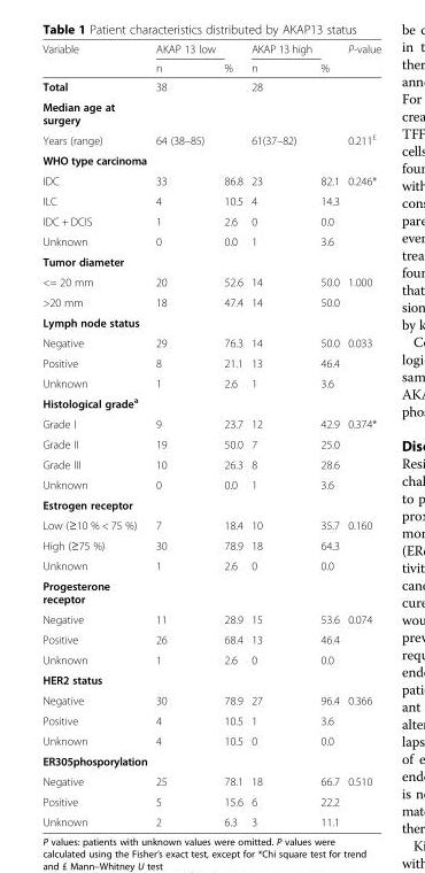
<table><thead><tr><td rowspan="2">Variable</td><td rowspan="2">AKAP 13 low n</td><td rowspan="2">%</td><td rowspan="2">AKAP 13 high n</td><td rowspan="2">%</td><td rowspan="2">P-value</td></tr><tr></tr></thead><tbody><tr><td>Total</td><td>38</td><td></td><td>28</td><td></td><td></td></tr><tr><td colspan="6">Median age at surgery</td></tr><tr><td>Years (range)</td><td>64 (38–85)</td><td></td><td>61(37–82)</td><td></td><td>0.211<sup>£</sup></td></tr><tr><td colspan="6">WHO type carcinoma</td></tr><tr><td>IDC</td><td>33</td><td>86.8</td><td>23</td><td>82.1</td><td>0.246*</td></tr><tr><td>ILC</td><td>4</td><td>10.5</td><td>4</td><td>14.3</td><td></td></tr><tr><td>IDC + DCIS</td><td>1</td><td>2.6</td><td>0</td><td>0.0</td><td></td></tr><tr><td>Unknown</td><td>0</td><td>0.0</td><td>1</td><td>3.6</td><td></td></tr><tr><td colspan="6">Tumor diameter</td></tr><tr><td>&lt;= 20 mm</td><td>20</td><td>52.6</td><td>14</td><td>50.0</td><td>1.000</td></tr><tr><td>&gt;20 mm</td><td>18</td><td>47.4</td><td>14</td><td>50.0</td><td></td></tr><tr><td colspan="6">Lymph node status</td></tr><tr><td>Negative</td><td>29</td><td>76.3</td><td>14</td><td>50.0</td><td>0.033</td></tr><tr><td>Positive</td><td>8</td><td>21.1</td><td>13</td><td>46.4</td><td></td></tr><tr><td>Unknown</td><td>1</td><td>2.6</td><td>1</td><td>3.6</td><td></td></tr><tr><td colspan="6">Histological grade<sup>a</sup></td></tr><tr><td>Grade I</td><td>9</td><td>23.7</td><td>12</td><td>42.9</td><td>0.374*</td></tr><tr><td>Grade II</td><td>19</td><td>50.0</td><td>7</td><td>25.0</td><td></td></tr><tr><td>Grade III</td><td>10</td><td>26.3</td><td>8</td><td>28.6</td><td></td></tr><tr><td>Unknown</td><td>0</td><td>0.0</td><td>1</td><td>3.6</td><td></td></tr><tr><td colspan="6">Estrogen receptor</td></tr><tr><td>Low (≥10 % &lt; 75 %)</td><td>7</td><td>18.4</td><td>10</td><td>35.7</td><td>0.160</td></tr><tr><td>High (≥75 %)</td><td>30</td><td>78.9</td><td>18</td><td>64.3</td><td></td></tr><tr><td>Unknown</td><td>1</td><td>2.6</td><td>0</td><td>0.0</td><td></td></tr><tr><td colspan="6">Progesterone receptor</td></tr><tr><td>Negative</td><td>11</td><td>28.9</td><td>15</td><td>53.6</td><td>0.074</td></tr><tr><td>Positive</td><td>26</td><td>68.4</td><td>13</td><td>46.4</td><td></td></tr><tr><td>Unknown</td><td>1</td><td>2.6</td><td>0</td><td>0.0</td><td></td></tr><tr><td colspan="6">HER2 status</td></tr><tr><td>Negative</td><td>30</td><td>78.9</td><td>27</td><td>96.4</td><td>0.366</td></tr><tr><td>Positive</td><td>4</td><td>10.5</td><td>1</td><td>3.6</td><td></td></tr><tr><td>Unknown</td><td>4</td><td>10.5</td><td>0</td><td>0.0</td><td></td></tr><tr><td colspan="6">ER305phosporylation</td></tr><tr><td>Negative</td><td>25</td><td>78.1</td><td>18</td><td>66.7</td><td>0.510</td></tr><tr><td>Positive</td><td>5</td><td>15.6</td><td>6</td><td>22.2</td><td></td></tr><tr><td>Unknown</td><td>2</td><td>6.3</td><td>3</td><td>11.1</td><td></td></tr></tbody></table>